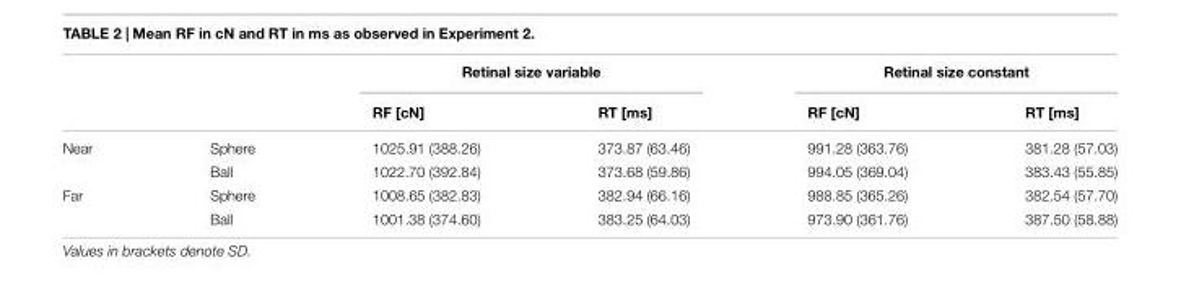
<table><thead><tr><td rowspan="2"></td><td rowspan="2"></td><td colspan="2">Retinal size variable</td><td colspan="2">Retinal size constant</td></tr><tr><td>RF [cN]</td><td>RT [ms]</td><td>RF [cN]</td><td>RT [ms]</td></tr></thead><tbody><tr><td rowspan="2">Near</td><td>Sphere</td><td>1025.91 (388.26)</td><td>373.87 (63.46)</td><td>991.28 (363.76)</td><td>381.28 (57.03)</td></tr><tr><td>Ball</td><td>1022.70 (392.84)</td><td>373.68 (59.86)</td><td>994.05 (369.04)</td><td>383.43 (55.85)</td></tr><tr><td rowspan="2">Far</td><td>Sphere</td><td>1008.65 (382.83)</td><td>382.94 (66.16)</td><td>988.85 (365.26)</td><td>382.54 (57.70)</td></tr><tr><td>Ball</td><td>1001.38 (374.60)</td><td>383.25 (64.03)</td><td>973.90 (361.76)</td><td>387.50 (58.88)</td></tr></tbody></table>